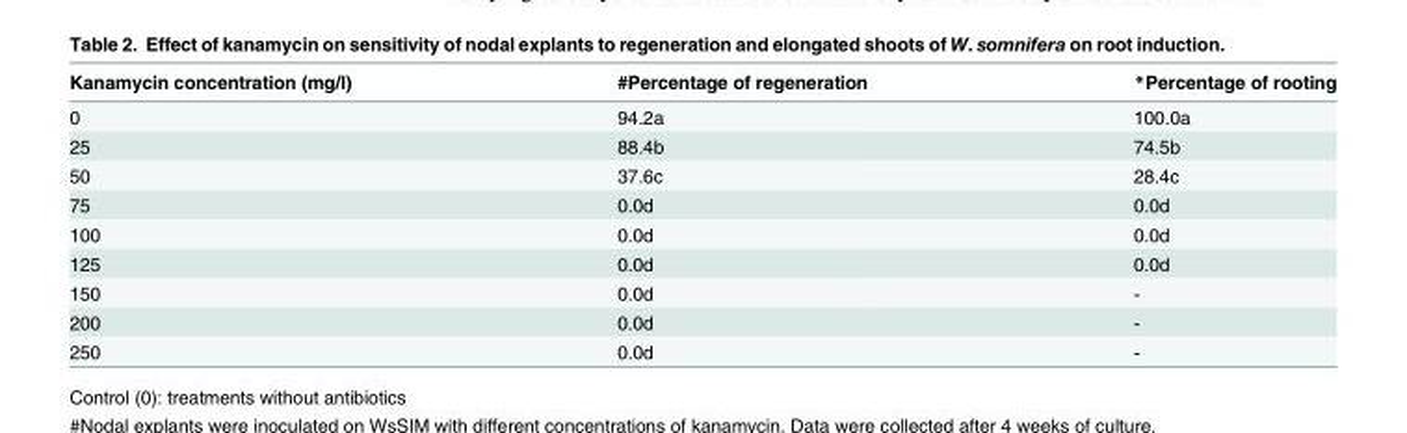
<table><thead><tr><td>Kanamycin concentration (mg/l)</td><td>#Percentage of regeneration</td><td>*Percentage of rooting</td></tr></thead><tbody><tr><td>0</td><td>94.2a</td><td>100.0a</td></tr><tr><td>25</td><td>88.4b</td><td>74.5b</td></tr><tr><td>50</td><td>37.6c</td><td>28.4c</td></tr><tr><td>75</td><td>0.0d</td><td>0.0d</td></tr><tr><td>100</td><td>0.0d</td><td>0.0d</td></tr><tr><td>125</td><td>0.0d</td><td>0.0d</td></tr><tr><td>150</td><td>0.0d</td><td>-</td></tr><tr><td>200</td><td>0.0d</td><td>-</td></tr><tr><td>250</td><td>0.0d</td><td>-</td></tr></tbody></table>